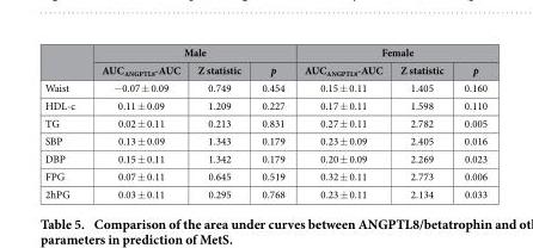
<table><thead><tr><td rowspan="2"></td><td colspan="3">Male</td><td colspan="3">Female</td></tr><tr><td>AUC<sub>ANGPTL8</sub>-AUC</td><td>Z statistic</td><td>p</td><td>AUC<sub>ANGPTL8</sub>-AUC</td><td>Z statistic</td><td>p</td></tr></thead><tbody><tr><td>Waist</td><td>− 0.07 ± 0.09</td><td>0.749</td><td>0.454</td><td>0.15 ± 0.11</td><td>1.405</td><td>0.160</td></tr><tr><td>HDL-c</td><td>0.11 ± 0.09</td><td>1.209</td><td>0.227</td><td>0.17 ± 0.11</td><td>1.598</td><td>0.110</td></tr><tr><td>TG</td><td>0.02 ± 0.11</td><td>0.213</td><td>0.831</td><td>0.27 ± 0.11</td><td>2.782</td><td>0.005</td></tr><tr><td>SBP</td><td>0.13 ± 0.09</td><td>1.343</td><td>0.179</td><td>0.23 ± 0.09</td><td>2.405</td><td>0.016</td></tr><tr><td>DBP</td><td>0.15 ± 0.11</td><td>1.342</td><td>0.179</td><td>0.20 ± 0.09</td><td>2.269</td><td>0.023</td></tr><tr><td>FPG</td><td>0.07 ± 0.11</td><td>0.645</td><td>0.519</td><td>0.32 ± 0.11</td><td>2.773</td><td>0.006</td></tr><tr><td>2hPG</td><td>0.03 ± 0.11</td><td>0.295</td><td>0.768</td><td>0.23 ± 0.11</td><td>2.134</td><td>0.033</td></tr></tbody></table>